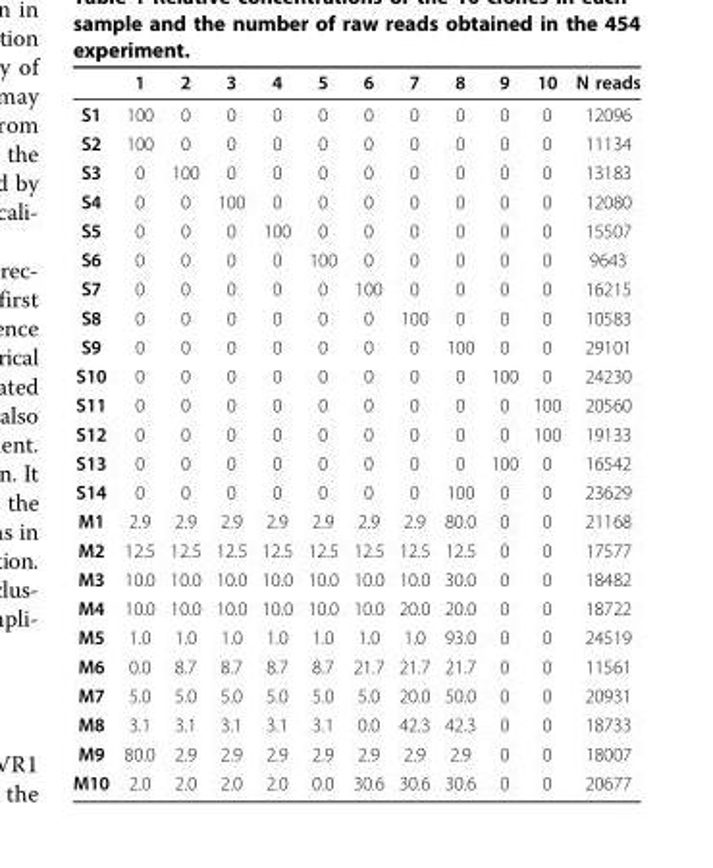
<table><thead><tr><td></td><td>1</td><td>2</td><td>3</td><td>4</td><td>5</td><td>6</td><td>7</td><td>8</td><td>9</td><td>10</td><td>N reads</td></tr></thead><tbody><tr><td>S1</td><td>100</td><td>0</td><td>0</td><td>0</td><td>0</td><td>0</td><td>0</td><td>0</td><td>0</td><td>0</td><td>12096</td></tr><tr><td>S2</td><td>100</td><td>0</td><td>0</td><td>0</td><td>0</td><td>0</td><td>0</td><td>0</td><td>0</td><td>0</td><td>11134</td></tr><tr><td>S3</td><td>0</td><td>100</td><td>0</td><td>0</td><td>0</td><td>0</td><td>0</td><td>0</td><td>0</td><td>0</td><td>13183</td></tr><tr><td>S4</td><td>0</td><td>0</td><td>100</td><td>0</td><td>0</td><td>0</td><td>0</td><td>0</td><td>0</td><td>0</td><td>12080</td></tr><tr><td>S5</td><td>0</td><td>0</td><td>0</td><td>100</td><td>0</td><td>0</td><td>0</td><td>0</td><td>0</td><td>0</td><td>15507</td></tr><tr><td>S6</td><td>0</td><td>0</td><td>0</td><td>0</td><td>100</td><td>0</td><td>0</td><td>0</td><td>0</td><td>0</td><td>9643</td></tr><tr><td>S7</td><td>0</td><td>0</td><td>0</td><td>0</td><td>0</td><td>100</td><td>0</td><td>0</td><td>0</td><td>0</td><td>16215</td></tr><tr><td>S8</td><td>0</td><td>0</td><td>0</td><td>0</td><td>0</td><td>0</td><td>100</td><td>0</td><td>0</td><td>0</td><td>10583</td></tr><tr><td>S9</td><td>0</td><td>0</td><td>0</td><td>0</td><td>0</td><td>0</td><td>0</td><td>100</td><td>0</td><td>0</td><td>29101</td></tr><tr><td>S10</td><td>0</td><td>0</td><td>0</td><td>0</td><td>0</td><td>0</td><td>0</td><td>0</td><td>100</td><td>0</td><td>24230</td></tr><tr><td>S11</td><td>0</td><td>0</td><td>0</td><td>0</td><td>0</td><td>0</td><td>0</td><td>0</td><td>0</td><td>100</td><td>20560</td></tr><tr><td>S12</td><td>0</td><td>0</td><td>0</td><td>0</td><td>0</td><td>0</td><td>0</td><td>0</td><td>0</td><td>100</td><td>19133</td></tr><tr><td>S13</td><td>0</td><td>0</td><td>0</td><td>0</td><td>0</td><td>0</td><td>0</td><td>0</td><td>100</td><td>0</td><td>16542</td></tr><tr><td>S14</td><td>0</td><td>0</td><td>0</td><td>0</td><td>0</td><td>0</td><td>0</td><td>100</td><td>0</td><td>0</td><td>23629</td></tr><tr><td>M1</td><td>2.9</td><td>2.9</td><td>2.9</td><td>2.9</td><td>2.9</td><td>2.9</td><td>2.9</td><td>80.0</td><td>0</td><td>0</td><td>21168</td></tr><tr><td>M2</td><td>12.5</td><td>12.5</td><td>12.5</td><td>12.5</td><td>12.5</td><td>12.5</td><td>12.5</td><td>12.5</td><td>0</td><td>0</td><td>17577</td></tr><tr><td>M3</td><td>10.0</td><td>10.0</td><td>10.0</td><td>10.0</td><td>10.0</td><td>10.0</td><td>10.0</td><td>30.0</td><td>0</td><td>0</td><td>18482</td></tr><tr><td>M4</td><td>10.0</td><td>10.0</td><td>10.0</td><td>10.0</td><td>10.0</td><td>10.0</td><td>20.0</td><td>20.0</td><td>0</td><td>0</td><td>18722</td></tr><tr><td>M5</td><td>1.0</td><td>1.0</td><td>1.0</td><td>1.0</td><td>1.0</td><td>1.0</td><td>1.0</td><td>93.0</td><td>0</td><td>0</td><td>24519</td></tr><tr><td>M6</td><td>0.0</td><td>8.7</td><td>8.7</td><td>8.7</td><td>8.7</td><td>21.7</td><td>21.7</td><td>21.7</td><td>0</td><td>0</td><td>11561</td></tr><tr><td>M7</td><td>5.0</td><td>5.0</td><td>5.0</td><td>5.0</td><td>5.0</td><td>5.0</td><td>20.0</td><td>50.0</td><td>0</td><td>0</td><td>20931</td></tr><tr><td>M8</td><td>3.1</td><td>3.1</td><td>3.1</td><td>3.1</td><td>3.1</td><td>0.0</td><td>42.3</td><td>42.3</td><td>0</td><td>0</td><td>18733</td></tr><tr><td>M9</td><td>80.0</td><td>2.9</td><td>2.9</td><td>2.9</td><td>2.9</td><td>2.9</td><td>2.9</td><td>2.9</td><td>0</td><td>0</td><td>18007</td></tr><tr><td>M10</td><td>2.0</td><td>2.0</td><td>2.0</td><td>2.0</td><td>0.0</td><td>30.6</td><td>30.6</td><td>30.6</td><td>0</td><td>0</td><td>20677</td></tr></tbody></table>